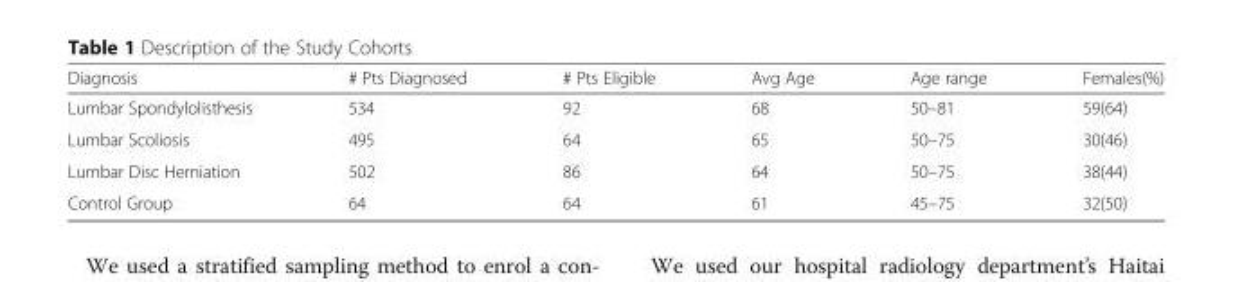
<table><thead><tr><td>Diagnosis</td><td># Pts Diagnosed</td><td># Pts Eligible</td><td>Avg Age</td><td>Age range</td><td>Females(%)</td></tr></thead><tbody><tr><td>Lumbar Spondylolisthesis</td><td>534</td><td>92</td><td>68</td><td>50–81</td><td>59(64)</td></tr><tr><td>Lumbar Scoliosis</td><td>495</td><td>64</td><td>65</td><td>50–75</td><td>30(46)</td></tr><tr><td>Lumbar Disc Herniation</td><td>502</td><td>86</td><td>64</td><td>50–75</td><td>38(44)</td></tr><tr><td>Control Group</td><td>64</td><td>64</td><td>61</td><td>45–75</td><td>32(50)</td></tr></tbody></table>